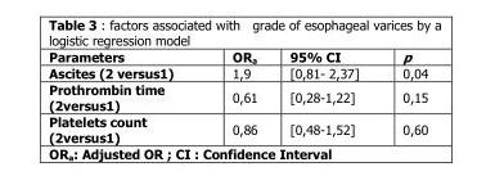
<table><thead><tr><td>Parameters</td><td>OR<sub>a</sub></td><td>95% CI</td><td>p</td></tr></thead><tbody><tr><td>Ascites (2 versus1)</td><td>1,9</td><td>[0,81- 2,37]</td><td>0,04</td></tr><tr><td>Prothrombin time (2versus1)</td><td>0,61</td><td>[0,28-1,22]</td><td>0,15</td></tr><tr><td>Platelets count (2versus1)</td><td>0,86</td><td>[0,48-1,52]</td><td>0,60</td></tr></tbody></table>